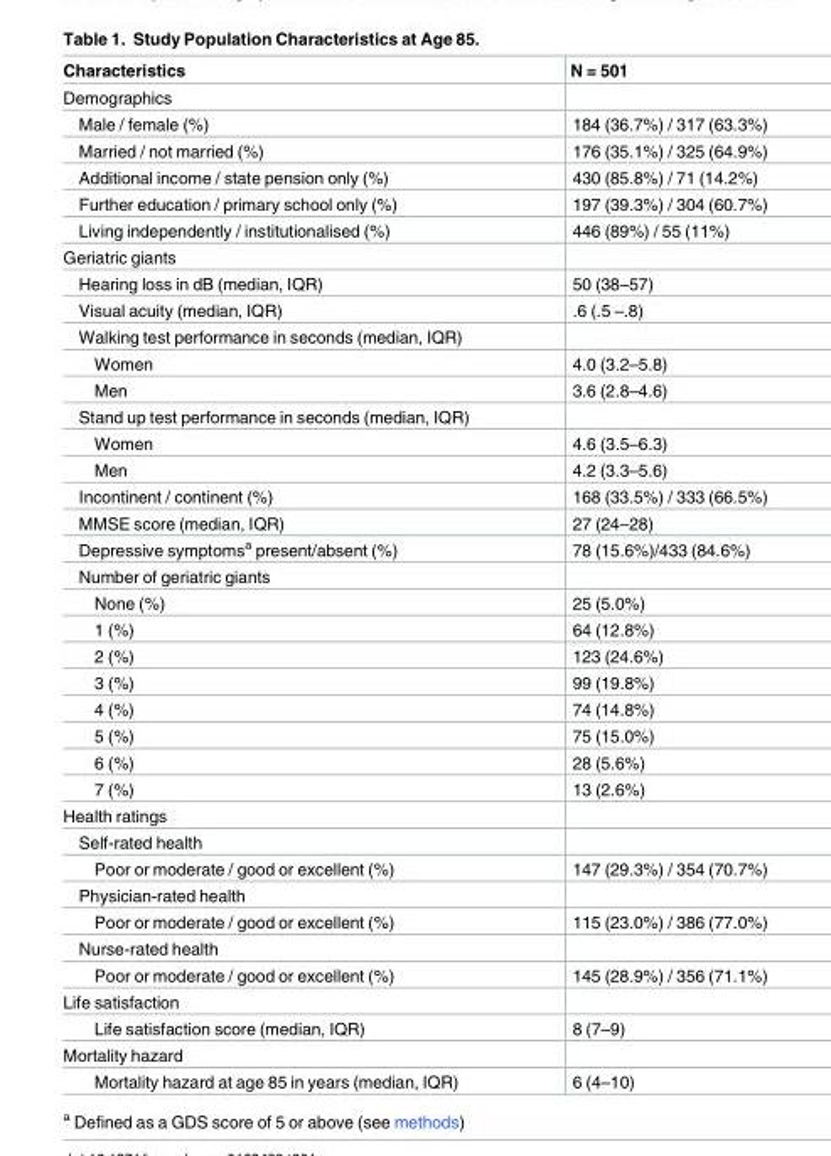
<table><thead><tr><td>Characteristics</td><td>N = 501</td></tr></thead><tbody><tr><td colspan="2">Demographics</td></tr><tr><td>Male / female (%)</td><td>184 (36.7%) / 317 (63.3%)</td></tr><tr><td>Married / not married (%)</td><td>176 (35.1%) / 325 (64.9%)</td></tr><tr><td>Additional income / state pension only (%)</td><td>430 (85.8%) / 71 (14.2%)</td></tr><tr><td>Further education / primary school only (%)</td><td>197 (39.3%) / 304 (60.7%)</td></tr><tr><td>Living independently / institutionalised (%)</td><td>446 (89%) / 55 (11%)</td></tr><tr><td colspan="2">Geriatric giants</td></tr><tr><td>Hearing loss in dB (median, IQR)</td><td>50 (38–57)</td></tr><tr><td>Visual acuity (median, IQR)</td><td>.6 (.5 –.8)</td></tr><tr><td colspan="2">Walking test performance in seconds (median, IQR)</td></tr><tr><td>Women</td><td>4.0 (3.2–5.8)</td></tr><tr><td>Men</td><td>3.6 (2.8–4.6)</td></tr><tr><td colspan="2">Stand up test performance in seconds (median, IQR)</td></tr><tr><td>Women</td><td>4.6 (3.5–6.3)</td></tr><tr><td>Men</td><td>4.2 (3.3–5.6)</td></tr><tr><td>Incontinent / continent (%)</td><td>168 (33.5%) / 333 (66.5%)</td></tr><tr><td>MMSE score (median, IQR)</td><td>27 (24–28)</td></tr><tr><td>Depressive symptoms<sup>a</sup> present/absent (%)</td><td>78 (15.6%)/433 (84.6%)</td></tr><tr><td colspan="2">Number of geriatric giants</td></tr><tr><td>None (%)</td><td>25 (5.0%)</td></tr><tr><td>1 (%)</td><td>64 (12.8%)</td></tr><tr><td>2 (%)</td><td>123 (24.6%)</td></tr><tr><td>3 (%)</td><td>99 (19.8%)</td></tr><tr><td>4 (%)</td><td>74 (14.8%)</td></tr><tr><td>5 (%)</td><td>75 (15.0%)</td></tr><tr><td>6 (%)</td><td>28 (5.6%)</td></tr><tr><td>7 (%)</td><td>13 (2.6%)</td></tr><tr><td colspan="2">Health ratings</td></tr><tr><td colspan="2">Self-rated health</td></tr><tr><td>Poor or moderate / good or excellent (%)</td><td>147 (29.3%) / 354 (70.7%)</td></tr><tr><td colspan="2">Physician-rated health</td></tr><tr><td>Poor or moderate / good or excellent (%)</td><td>115 (23.0%) / 386 (77.0%)</td></tr><tr><td colspan="2">Nurse-rated health</td></tr><tr><td>Poor or moderate / good or excellent (%)</td><td>145 (28.9%) / 356 (71.1%)</td></tr><tr><td colspan="2">Life satisfaction</td></tr><tr><td>Life satisfaction score (median, IQR)</td><td>8 (7–9)</td></tr><tr><td colspan="2">Mortality hazard</td></tr><tr><td>Mortality hazard at age 85 in years (median, IQR)</td><td>6 (4–10)</td></tr></tbody></table>